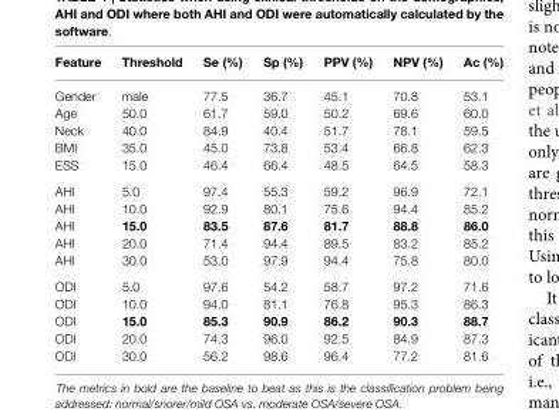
<table><thead><tr><td>Feature</td><td>Threshold</td><td>Se (%)</td><td>Sp (%)</td><td>PPV (%)</td><td>NPV (%)</td><td>Ac (%)</td></tr></thead><tbody><tr><td>Gender</td><td>male</td><td>77.5</td><td>36.7</td><td>45.1</td><td>70.8</td><td>53.1</td></tr><tr><td>Age</td><td>50.0</td><td>61.7</td><td>59.0</td><td>50.2</td><td>69.6</td><td>60.0</td></tr><tr><td>Neck</td><td>40.0</td><td>84.9</td><td>40.4</td><td>51.7</td><td>78.1</td><td>59.5</td></tr><tr><td>BMI</td><td>35.0</td><td>45.0</td><td>73.8</td><td>53.4</td><td>66.8</td><td>62.3</td></tr><tr><td>ESS</td><td>15.0</td><td>46.4</td><td>66.4</td><td>48.5</td><td>64.5</td><td>58.3</td></tr><tr><td>AHI</td><td>5.0</td><td>97.4</td><td>55.3</td><td>59.2</td><td>96.9</td><td>72.1</td></tr><tr><td>AHI</td><td>10.0</td><td>92.9</td><td>80.1</td><td>75.6</td><td>94.4</td><td>85.2</td></tr><tr><td>AHI</td><td>15.0</td><td>83.5</td><td>87.6</td><td>81.7</td><td>88.8</td><td>86.0</td></tr><tr><td>AHI</td><td>20.0</td><td>71.4</td><td>94.4</td><td>89.5</td><td>83.2</td><td>85.2</td></tr><tr><td>AHI</td><td>30.0</td><td>53.0</td><td>97.9</td><td>94.4</td><td>75.8</td><td>80.0</td></tr><tr><td>ODI</td><td>5.0</td><td>97.6</td><td>54.2</td><td>58.7</td><td>97.2</td><td>71.6</td></tr><tr><td>ODI</td><td>10.0</td><td>94.0</td><td>81.1</td><td>76.8</td><td>95.3</td><td>86.3</td></tr><tr><td>ODI</td><td>15.0</td><td>85.3</td><td>90.9</td><td>86.2</td><td>90.3</td><td>88.7</td></tr><tr><td>ODI</td><td>20.0</td><td>74.3</td><td>96.0</td><td>92.5</td><td>84.9</td><td>87.3</td></tr><tr><td>ODI</td><td>30.0</td><td>56.2</td><td>98.6</td><td>96.4</td><td>77.2</td><td>81.6</td></tr></tbody></table>